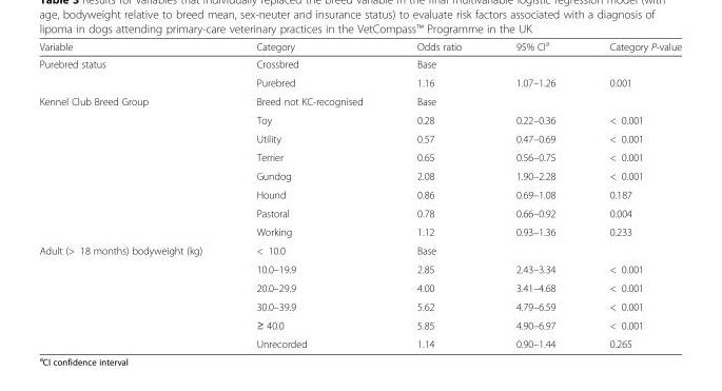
<table><thead><tr><td>Variable</td><td>Category</td><td>Odds ratio</td><td>95% CI<sup>a</sup></td><td>Category P-value</td></tr></thead><tbody><tr><td rowspan="2">Purebred status</td><td>Crossbred</td><td>Base</td><td></td><td></td></tr><tr><td>Purebred</td><td>1.16</td><td>1.07–1.26</td><td>0.001</td></tr><tr><td rowspan="8">Kennel Club Breed Group</td><td>Breed not KC-recognised</td><td>Base</td><td></td><td></td></tr><tr><td>Toy</td><td>0.28</td><td>0.22–0.36</td><td>&lt; 0.001</td></tr><tr><td>Utility</td><td>0.57</td><td>0.47–0.69</td><td>&lt; 0.001</td></tr><tr><td>Terrier</td><td>0.65</td><td>0.56–0.75</td><td>&lt; 0.001</td></tr><tr><td>Gundog</td><td>2.08</td><td>1.90–2.28</td><td>&lt; 0.001</td></tr><tr><td>Hound</td><td>0.86</td><td>0.69–1.08</td><td>0.187</td></tr><tr><td>Pastoral</td><td>0.78</td><td>0.66–0.92</td><td>0.004</td></tr><tr><td>Working</td><td>1.12</td><td>0.93–1.36</td><td>0.233</td></tr><tr><td rowspan="6">Adult (&gt; 18 months) bodyweight (kg)</td><td>&lt; 10.0</td><td>Base</td><td></td><td></td></tr><tr><td>10.0–19.9</td><td>2.85</td><td>2.43–3.34</td><td>&lt; 0.001</td></tr><tr><td>20.0–29.9</td><td>4.00</td><td>3.41–4.68</td><td>&lt; 0.001</td></tr><tr><td>30.0–39.9</td><td>5.62</td><td>4.79–6.59</td><td>&lt; 0.001</td></tr><tr><td>≥ 40.0</td><td>5.85</td><td>4.90–6.97</td><td>&lt; 0.001</td></tr><tr><td>Unrecorded</td><td>1.14</td><td>0.90–1.44</td><td>0.265</td></tr></tbody></table>